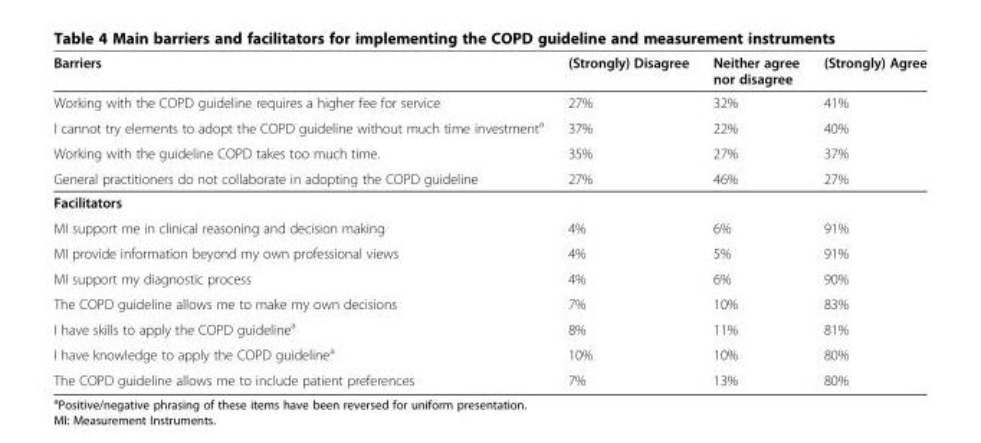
<table><thead><tr><td>Barriers</td><td>(Strongly) Disagree</td><td>Neither agree nor disagree</td><td>(Strongly) Agree</td></tr></thead><tbody><tr><td>Working with the COPD guideline requires a higher fee for service</td><td>27%</td><td>32%</td><td>41%</td></tr><tr><td>I cannot try elements to adopt the COPD guideline without much time investment<sup>a</sup></td><td>37%</td><td>22%</td><td>40%</td></tr><tr><td>Working with the guideline COPD takes too much time.</td><td>35%</td><td>27%</td><td>37%</td></tr><tr><td>General practitioners do not collaborate in adopting the COPD guideline</td><td>27%</td><td>46%</td><td>27%</td></tr><tr><td colspan="4">Facilitators</td></tr><tr><td>MI support me in clinical reasoning and decision making</td><td>4%</td><td>6%</td><td>91%</td></tr><tr><td>MI provide information beyond my own professional views</td><td>4%</td><td>5%</td><td>91%</td></tr><tr><td>MI support my diagnostic process</td><td>4%</td><td>6%</td><td>90%</td></tr><tr><td>The COPD guideline allows me to make my own decisions</td><td>7%</td><td>10%</td><td>83%</td></tr><tr><td>I have skills to apply the COPD guideline<sup>a</sup></td><td>8%</td><td>11%</td><td>81%</td></tr><tr><td>I have knowledge to apply the COPD guideline<sup>a</sup></td><td>10%</td><td>10%</td><td>80%</td></tr><tr><td>The COPD guideline allows me to include patient preferences</td><td>7%</td><td>13%</td><td>80%</td></tr></tbody></table>